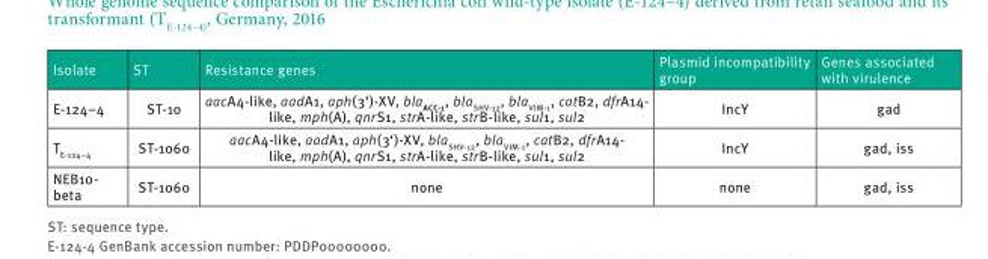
<table><thead><tr><td>Isolate</td><td>ST</td><td>Resistance genes</td><td>Plasmid incompatibility group</td><td>Genes associated with virulence</td></tr></thead><tbody><tr><td>E-124–4</td><td>ST-10</td><td>aacA4-like, aadA1, aph(3‘)-XV, bla<sub>ACC-1</sub>, bla<sub>SHV-12</sub>, bla<sub>VIM-1</sub>, catB2, dfrA14- like, mph(A), qnrS1, strA-like, strB-like, sul1, sul2</td><td>IncY</td><td>gad</td></tr><tr><td>T<sub>E-124–4</sub></td><td>ST-1060</td><td>aacA4-like, aadA1, aph(3‘)-XV, bla<sub>SHV-12</sub>, bla<sub>VIM-1</sub>, catB2, dfrA14- like, mph(A), qnrS1, strA-like, strB-like, sul1, sul2</td><td>IncY</td><td>gad, iss</td></tr><tr><td>NEB10- beta</td><td>ST-1060</td><td>none</td><td>none</td><td>gad, iss</td></tr></tbody></table>